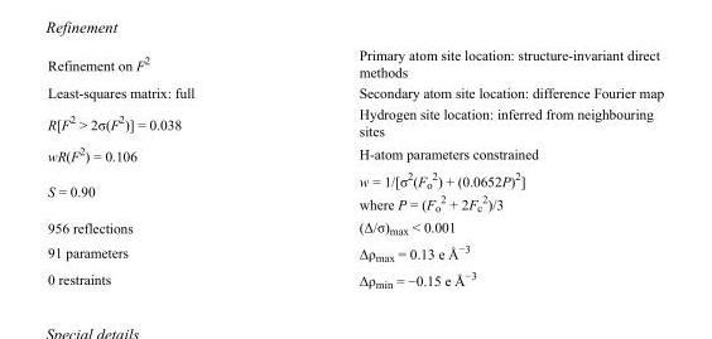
<table><tbody><tr><td>Refinement on F<sup>2</sup></td><td>Primary atom site location: structure-invariant direct methods</td></tr><tr><td>Least-squares matrix: full</td><td>Secondary atom site location: difference Fourier map</td></tr><tr><td>R[F<sup>2</sup> &gt; 2σ(F<sup>2</sup>)] = 0.038</td><td>Hydrogen site location: inferred from neighbouring sites</td></tr><tr><td>wR(F<sup>2</sup>) = 0.106</td><td>H-atom parameters constrained</td></tr><tr><td>S = 0.90</td><td>w = 1/[σ<sup>2</sup>(F<sub>o</sub> <sup>2</sup>) + (0.0652P)<sup>2</sup>] where P = (F<sub>o</sub> <sup>2</sup> + 2F<sub>c</sub> <sup>2</sup>)/3</td></tr><tr><td>956 reflections</td><td>(Δ/σ)<sub>max</sub> &lt; 0.001</td></tr><tr><td>91 parameters</td><td>Δρ<sub>max</sub> = 0.13 e Å<sup>−3</sup></td></tr><tr><td>0 restraints</td><td>Δρ<sub>min</sub> = −0.15 e Å<sup>−3</sup></td></tr></tbody></table>